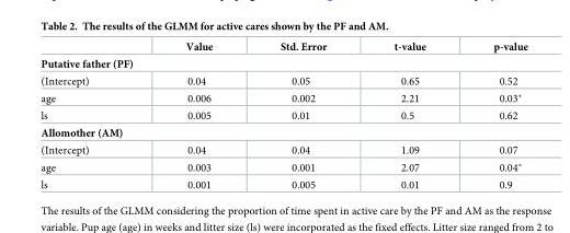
<table><thead><tr><td></td><td>Value</td><td>Std. Error</td><td>t-value</td><td>p-value</td></tr></thead><tbody><tr><td colspan="5">Putative father (PF)</td></tr><tr><td>(Intercept)</td><td>0.04</td><td>0.05</td><td>0.65</td><td>0.52</td></tr><tr><td>age</td><td>0.006</td><td>0.002</td><td>2.21</td><td>0.03*</td></tr><tr><td>ls</td><td>0.005</td><td>0.01</td><td>0.5</td><td>0.62</td></tr><tr><td colspan="5">Allomother (AM)</td></tr><tr><td>(Intercept)</td><td>0.04</td><td>0.04</td><td>1.09</td><td>0.07</td></tr><tr><td>age</td><td>0.003</td><td>0.001</td><td>2.07</td><td>0.04*</td></tr><tr><td>ls</td><td>0.001</td><td>0.005</td><td>0.01</td><td>0.9</td></tr></tbody></table>